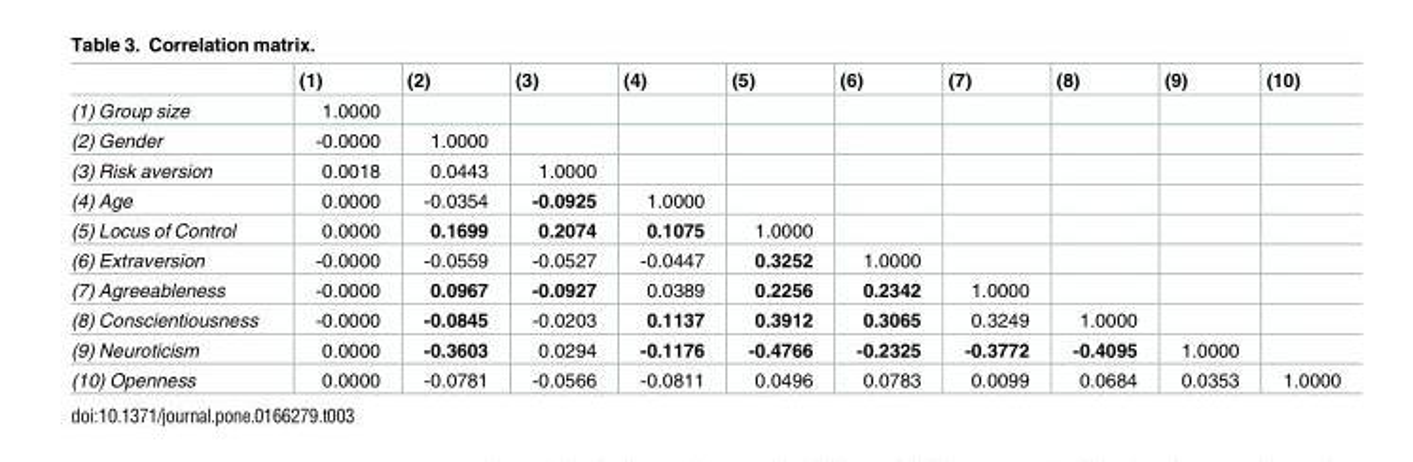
<table><thead><tr><td></td><td>(1)</td><td>(2)</td><td>(3)</td><td>(4)</td><td>(5)</td><td>(6)</td><td>(7)</td><td>(8)</td><td>(9)</td><td>(10)</td></tr></thead><tbody><tr><td>(1) Group size</td><td>1.0000</td><td></td><td></td><td></td><td></td><td></td><td></td><td></td><td></td><td></td></tr><tr><td>(2) Gender</td><td>-0.0000</td><td>1.0000</td><td></td><td></td><td></td><td></td><td></td><td></td><td></td><td></td></tr><tr><td>(3) Risk aversion</td><td>0.0018</td><td>0.0443</td><td>1.0000</td><td></td><td></td><td></td><td></td><td></td><td></td><td></td></tr><tr><td>(4) Age</td><td>0.0000</td><td>-0.0354</td><td>-0.0925</td><td>1.0000</td><td></td><td></td><td></td><td></td><td></td><td></td></tr><tr><td>(5) Locus of Control</td><td>0.0000</td><td>0.1699</td><td>0.2074</td><td>0.1075</td><td>1.0000</td><td></td><td></td><td></td><td></td><td></td></tr><tr><td>(6) Extraversion</td><td>-0.0000</td><td>-0.0559</td><td>-0.0527</td><td>-0.0447</td><td>0.3252</td><td>1.0000</td><td></td><td></td><td></td><td></td></tr><tr><td>(7) Agreeableness</td><td>-0.0000</td><td>0.0967</td><td>-0.0927</td><td>0.0389</td><td>0.2256</td><td>0.2342</td><td>1.0000</td><td></td><td></td><td></td></tr><tr><td>(8) Conscientiousness</td><td>-0.0000</td><td>-0.0845</td><td>-0.0203</td><td>0.1137</td><td>0.3912</td><td>0.3065</td><td>0.3249</td><td>1.0000</td><td></td><td></td></tr><tr><td>(9) Neuroticism</td><td>0.0000</td><td>-0.3603</td><td>0.0294</td><td>-0.1176</td><td>-0.4766</td><td>-0.2325</td><td>-0.3772</td><td>-0.4095</td><td>1.0000</td><td></td></tr><tr><td>(10) Openness</td><td>0.0000</td><td>-0.0781</td><td>-0.0566</td><td>-0.0811</td><td>0.0496</td><td>0.0783</td><td>0.0099</td><td>0.0684</td><td>0.0353</td><td>1.0000</td></tr></tbody></table>